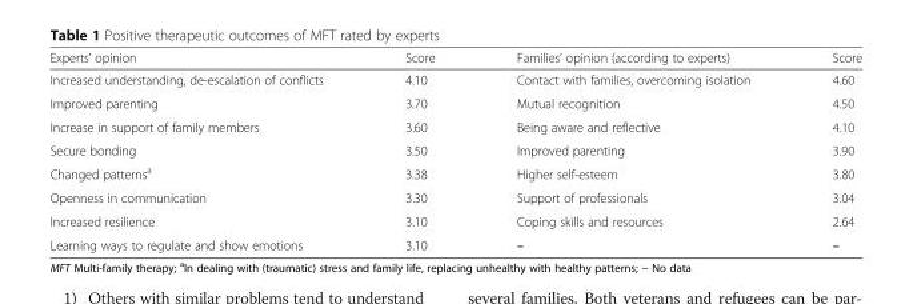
<table><thead><tr><td>Experts’ opinion</td><td>Score</td><td>Families’ opinion (according to experts)</td><td>Score</td></tr></thead><tbody><tr><td>Increased understanding, de-escalation of conflicts</td><td>4.10</td><td>Contact with families, overcoming isolation</td><td>4.60</td></tr><tr><td>Improved parenting</td><td>3.70</td><td>Mutual recognition</td><td>4.50</td></tr><tr><td>Increase in support of family members</td><td>3.60</td><td>Being aware and reflective</td><td>4.10</td></tr><tr><td>Secure bonding</td><td>3.50</td><td>Improved parenting</td><td>3.90</td></tr><tr><td>Changed patterns<sup>a</sup></td><td>3.38</td><td>Higher self-esteem</td><td>3.80</td></tr><tr><td>Openness in communication</td><td>3.30</td><td>Support of professionals</td><td>3.04</td></tr><tr><td>Increased resilience</td><td>3.10</td><td>Coping skills and resources</td><td>2.64</td></tr><tr><td>Learning ways to regulate and show emotions</td><td>3.10</td><td>–</td><td>–</td></tr></tbody></table>